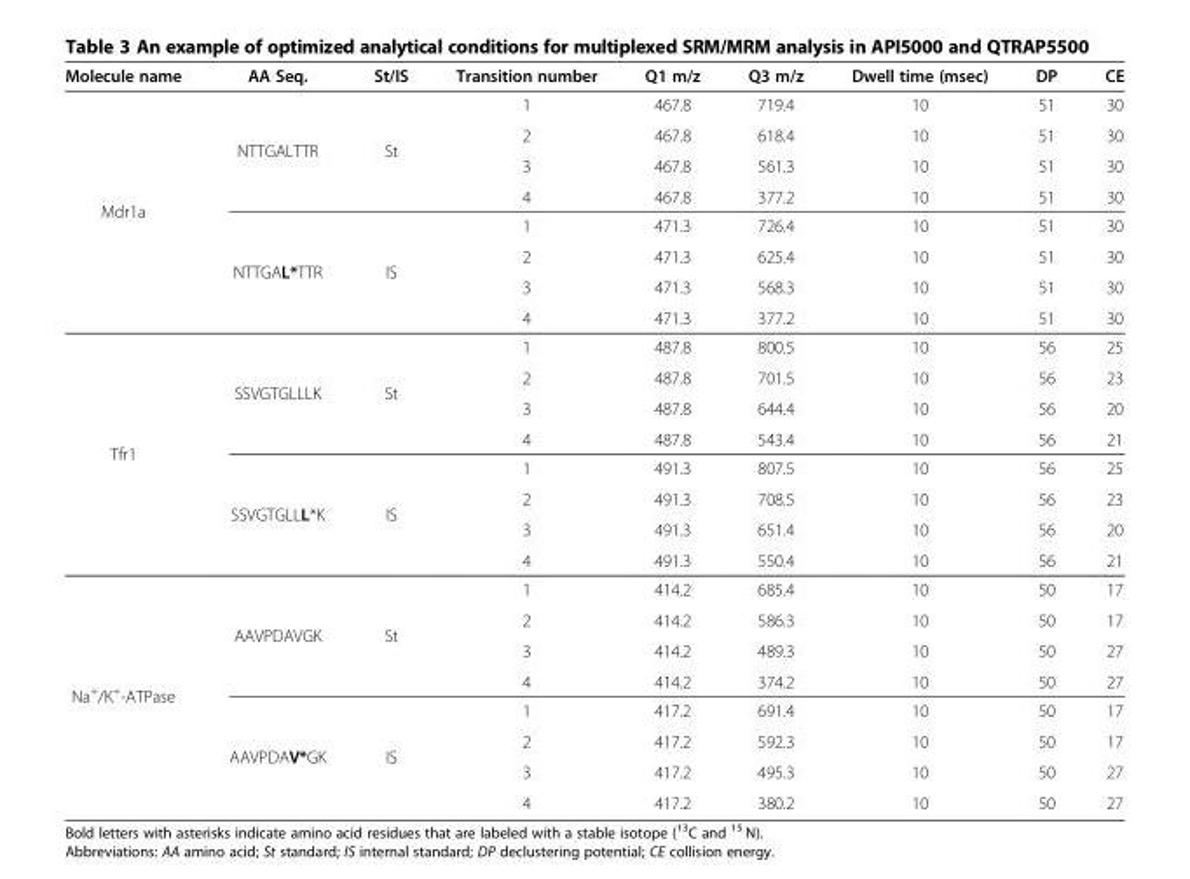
<table><thead><tr><td>Molecule name</td><td>AA Seq.</td><td>St/IS</td><td>Transition number</td><td>Q1 m/z</td><td>Q3 m/z</td><td>Dwell time (msec)</td><td>DP</td><td>CE</td></tr></thead><tbody><tr><td rowspan="8">Mdr1a</td><td rowspan="4">NTTGALTTR</td><td rowspan="4">St</td><td>1</td><td>467.8</td><td>719.4</td><td>10</td><td>51</td><td>30</td></tr><tr><td>2</td><td>467.8</td><td>618.4</td><td>10</td><td>51</td><td>30</td></tr><tr><td>3</td><td>467.8</td><td>561.3</td><td>10</td><td>51</td><td>30</td></tr><tr><td>4</td><td>467.8</td><td>377.2</td><td>10</td><td>51</td><td>30</td></tr><tr><td rowspan="4">NTTGAL*TTR</td><td rowspan="4">IS</td><td>1</td><td>471.3</td><td>726.4</td><td>10</td><td>51</td><td>30</td></tr><tr><td>2</td><td>471.3</td><td>625.4</td><td>10</td><td>51</td><td>30</td></tr><tr><td>3</td><td>471.3</td><td>568.3</td><td>10</td><td>51</td><td>30</td></tr><tr><td>4</td><td>471.3</td><td>377.2</td><td>10</td><td>51</td><td>30</td></tr><tr><td rowspan="8">Tfr1</td><td rowspan="4">SSVGTGLLLK</td><td rowspan="4">St</td><td>1</td><td>487.8</td><td>800.5</td><td>10</td><td>56</td><td>25</td></tr><tr><td>2</td><td>487.8</td><td>701.5</td><td>10</td><td>56</td><td>23</td></tr><tr><td>3</td><td>487.8</td><td>644.4</td><td>10</td><td>56</td><td>20</td></tr><tr><td>4</td><td>487.8</td><td>543.4</td><td>10</td><td>56</td><td>21</td></tr><tr><td rowspan="4">SSVGTGLLL*K</td><td rowspan="4">IS</td><td>1</td><td>491.3</td><td>807.5</td><td>10</td><td>56</td><td>25</td></tr><tr><td>2</td><td>491.3</td><td>708.5</td><td>10</td><td>56</td><td>23</td></tr><tr><td>3</td><td>491.3</td><td>651.4</td><td>10</td><td>56</td><td>20</td></tr><tr><td>4</td><td>491.3</td><td>550.4</td><td>10</td><td>56</td><td>21</td></tr><tr><td rowspan="8">Na<sup>+</sup>/K<sup>+</sup>-ATPase</td><td rowspan="4">AAVPDAVGK</td><td rowspan="4">St</td><td>1</td><td>414.2</td><td>685.4</td><td>10</td><td>50</td><td>17</td></tr><tr><td>2</td><td>414.2</td><td>586.3</td><td>10</td><td>50</td><td>17</td></tr><tr><td>3</td><td>414.2</td><td>489.3</td><td>10</td><td>50</td><td>27</td></tr><tr><td>4</td><td>414.2</td><td>374.2</td><td>10</td><td>50</td><td>27</td></tr><tr><td rowspan="4">AAVPDAV*GK</td><td rowspan="4">IS</td><td>1</td><td>417.2</td><td>691.4</td><td>10</td><td>50</td><td>17</td></tr><tr><td>2</td><td>417.2</td><td>592.3</td><td>10</td><td>50</td><td>17</td></tr><tr><td>3</td><td>417.2</td><td>495.3</td><td>10</td><td>50</td><td>27</td></tr><tr><td>4</td><td>417.2</td><td>380.2</td><td>10</td><td>50</td><td>27</td></tr></tbody></table>